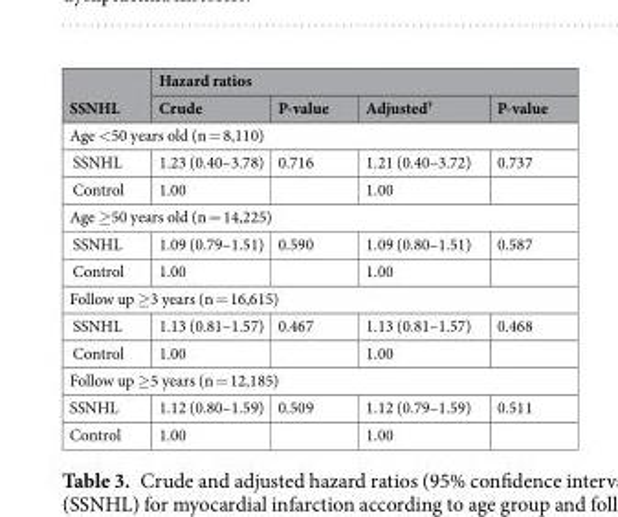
<table><thead><tr><td rowspan="2">SSNHL</td><td colspan="4">Hazard ratios</td></tr><tr><td>Crude</td><td>P-value</td><td>Adjusted<sup>†</sup></td><td>P-value</td></tr></thead><tbody><tr><td colspan="5">Age &lt;50 years old (n = 8,110)</td></tr><tr><td>SSNHL</td><td>1.23 (0.40–3.78)</td><td>0.716</td><td>1.21 (0.40–3.72)</td><td>0.737</td></tr><tr><td>Control</td><td>1.00</td><td></td><td>1.00</td><td></td></tr><tr><td colspan="5">Age ≥50 years old (n = 14,225)</td></tr><tr><td>SSNHL</td><td>1.09 (0.79–1.51)</td><td>0.590</td><td>1.09 (0.80–1.51)</td><td>0.587</td></tr><tr><td>Control</td><td>1.00</td><td></td><td>1.00</td><td></td></tr><tr><td colspan="5">Follow up ≥3 years (n = 16,615)</td></tr><tr><td>SSNHL</td><td>1.13 (0.81–1.57)</td><td>0.467</td><td>1.13 (0.81–1.57)</td><td>0.468</td></tr><tr><td>Control</td><td>1.00</td><td></td><td>1.00</td><td></td></tr><tr><td colspan="5">Follow up ≥5 years (n = 12,185)</td></tr><tr><td>SSNHL</td><td>1.12 (0.80–1.59)</td><td>0.509</td><td>1.12 (0.79–1.59)</td><td>0.511</td></tr><tr><td>Control</td><td>1.00</td><td></td><td>1.00</td><td></td></tr></tbody></table>